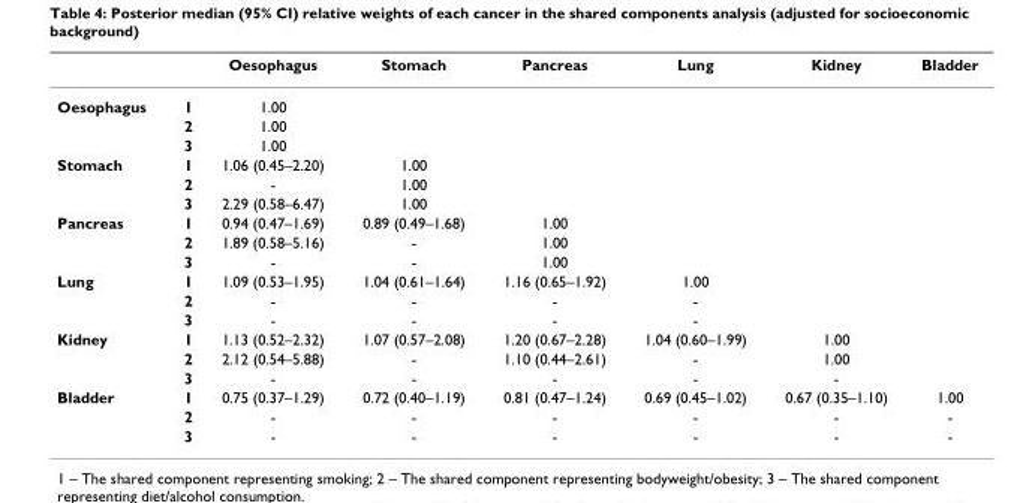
<table><thead><tr><td></td><td></td><td>Oesophagus</td><td>Stomach</td><td>Pancreas</td><td>Lung</td><td>Kidney</td><td>Bladder</td></tr></thead><tbody><tr><td rowspan="3">Oesophagus</td><td>1</td><td>1.00</td><td></td><td></td><td></td><td></td><td></td></tr><tr><td>2</td><td>1.00</td><td></td><td></td><td></td><td></td><td></td></tr><tr><td>3</td><td>1.00</td><td></td><td></td><td></td><td></td><td></td></tr><tr><td rowspan="3">Stomach</td><td>1</td><td>1.06 (0.45–2.20)</td><td>1.00</td><td></td><td></td><td></td><td></td></tr><tr><td>2</td><td>-</td><td>1.00</td><td></td><td></td><td></td><td></td></tr><tr><td>3</td><td>2.29 (0.58–6.47)</td><td>1.00</td><td></td><td></td><td></td><td></td></tr><tr><td rowspan="3">Pancreas</td><td>1</td><td>0.94 (0.47–1.69)</td><td>0.89 (0.49–1.68)</td><td>1.00</td><td></td><td></td><td></td></tr><tr><td>2</td><td>1.89 (0.58–5.16)</td><td>-</td><td>1.00</td><td></td><td></td><td></td></tr><tr><td>3</td><td>-</td><td>-</td><td>1.00</td><td></td><td></td><td></td></tr><tr><td rowspan="3">Lung</td><td>1</td><td>1.09 (0.53–1.95)</td><td>1.04 (0.61–1.64)</td><td>1.16 (0.65–1.92)</td><td>1.00</td><td></td><td></td></tr><tr><td>2</td><td>-</td><td>-</td><td>-</td><td>-</td><td></td><td></td></tr><tr><td>3</td><td>-</td><td>-</td><td>-</td><td>-</td><td></td><td></td></tr><tr><td rowspan="3">Kidney</td><td>1</td><td>1.13 (0.52–2.32)</td><td>1.07 (0.57–2.08)</td><td>1.20 (0.67–2.28)</td><td>1.04 (0.60–1.99)</td><td>1.00</td><td></td></tr><tr><td>2</td><td>2.12 (0.54–5.88)</td><td>-</td><td>1.10 (0.44–2.61)</td><td>-</td><td>1.00</td><td></td></tr><tr><td>3</td><td>-</td><td>-</td><td>-</td><td>-</td><td>-</td><td></td></tr><tr><td rowspan="3">Bladder</td><td>1</td><td>0.75 (0.37–1.29)</td><td>0.72 (0.40–1.19)</td><td>0.81 (0.47–1.24)</td><td>0.69 (0.45–1.02)</td><td>0.67 (0.35–1.10)</td><td>1.00</td></tr><tr><td>2</td><td>-</td><td>-</td><td>-</td><td>-</td><td>-</td><td>-</td></tr><tr><td>3</td><td>-</td><td>-</td><td>-</td><td>-</td><td>-</td><td>-</td></tr></tbody></table>